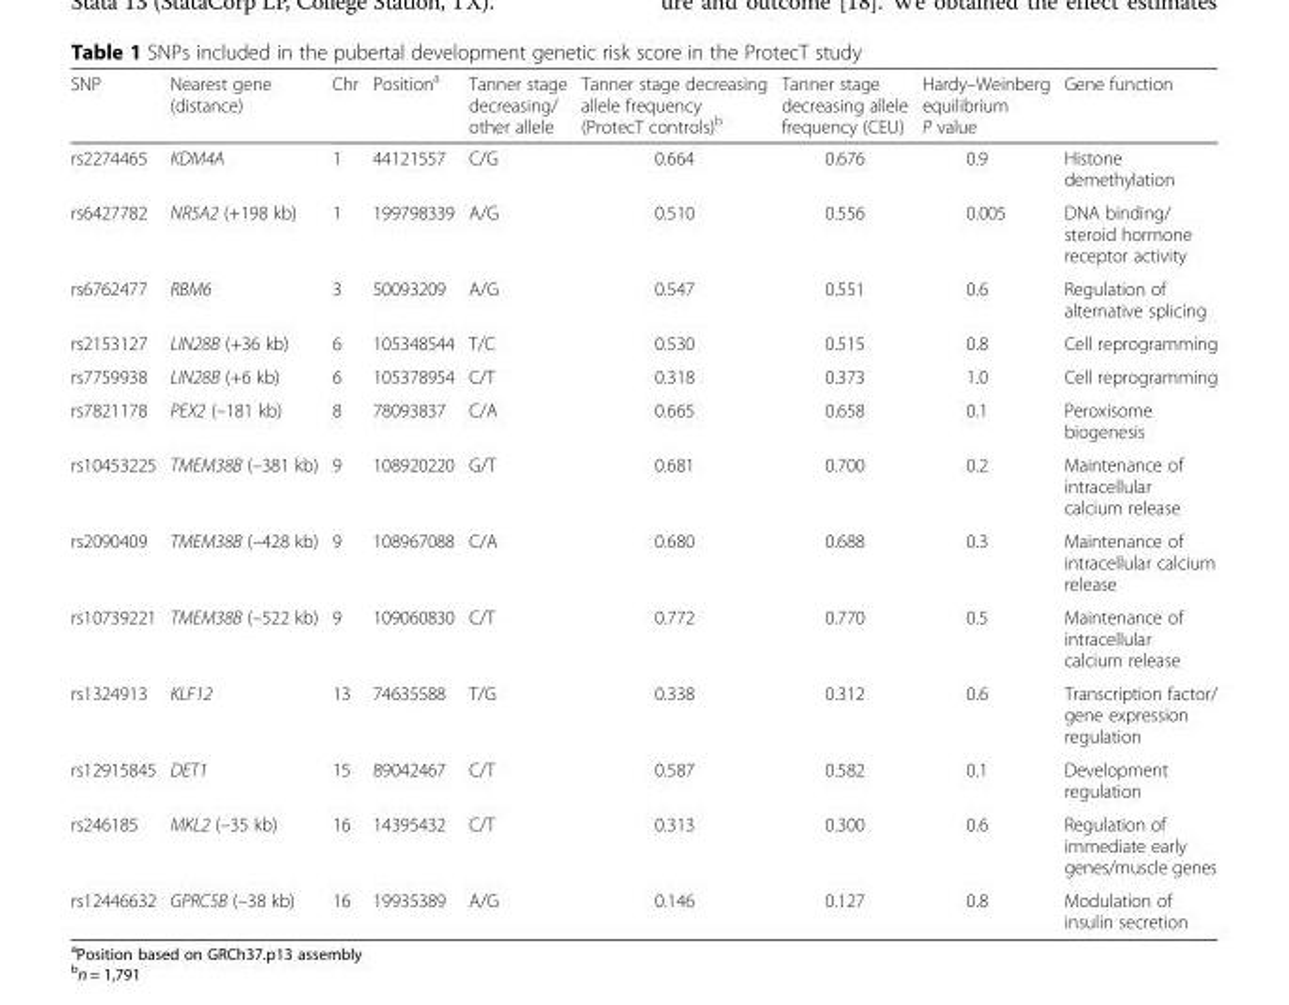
<table><thead><tr><td>SNP</td><td>Nearest gene (distance)</td><td>Chr</td><td>Position<sup>a</sup></td><td>Tanner stage decreasing/ other allele</td><td>Tanner stage decreasing allele frequency (ProtecT controls)<sup>b</sup></td><td>Tanner stage decreasing allele frequency (CEU)</td><td>Hardy–Weinberg equilibrium P value</td><td>Gene function</td></tr></thead><tbody><tr><td>rs2274465</td><td>KDM4A</td><td>1</td><td>44121557</td><td>C/G</td><td>0.664</td><td>0.676</td><td>0.9</td><td>Histone demethylation</td></tr><tr><td>rs6427782</td><td>NR5A2 (+198 kb)</td><td>1</td><td>199798339</td><td>A/G</td><td>0.510</td><td>0.556</td><td>0.005</td><td>DNA binding/ steroid hormone receptor activity</td></tr><tr><td>rs6762477</td><td>RBM6</td><td>3</td><td>50093209</td><td>A/G</td><td>0.547</td><td>0.551</td><td>0.6</td><td>Regulation of alternative splicing</td></tr><tr><td>rs2153127</td><td>LIN28B (+36 kb)</td><td>6</td><td>105348544</td><td>T/C</td><td>0.530</td><td>0.515</td><td>0.8</td><td>Cell reprogramming</td></tr><tr><td>rs7759938</td><td>LIN28B (+6 kb)</td><td>6</td><td>105378954</td><td>C/T</td><td>0.318</td><td>0.373</td><td>1.0</td><td>Cell reprogramming</td></tr><tr><td>rs7821178</td><td>PEX2 (–181 kb)</td><td>8</td><td>78093837</td><td>C/A</td><td>0.665</td><td>0.658</td><td>0.1</td><td>Peroxisome biogenesis</td></tr><tr><td>rs10453225</td><td>TMEM38B (–381 kb)</td><td>9</td><td>108920220</td><td>G/T</td><td>0.681</td><td>0.700</td><td>0.2</td><td>Maintenance of intracellular calcium release</td></tr><tr><td>rs2090409</td><td>TMEM38B (–428 kb)</td><td>9</td><td>108967088</td><td>C/A</td><td>0.680</td><td>0.688</td><td>0.3</td><td>Maintenance of intracellular calcium release</td></tr><tr><td>rs10739221</td><td>TMEM38B (–522 kb)</td><td>9</td><td>109060830</td><td>C/T</td><td>0.772</td><td>0.770</td><td>0.5</td><td>Maintenance of intracellular calcium release</td></tr><tr><td>rs1324913</td><td>KLF12</td><td>13</td><td>74635588</td><td>T/G</td><td>0.338</td><td>0.312</td><td>0.6</td><td>Transcription factor/ gene expression regulation</td></tr><tr><td>rs12915845</td><td>DET1</td><td>15</td><td>89042467</td><td>C/T</td><td>0.587</td><td>0.582</td><td>0.1</td><td>Development regulation</td></tr><tr><td>rs246185</td><td>MKL2 (–35 kb)</td><td>16</td><td>14395432</td><td>C/T</td><td>0.313</td><td>0.300</td><td>0.6</td><td>Regulation of immediate early genes/muscle genes</td></tr><tr><td>rs12446632</td><td>GPRC5B (–38 kb)</td><td>16</td><td>19935389</td><td>A/G</td><td>0.146</td><td>0.127</td><td>0.8</td><td>Modulation of insulin secretion</td></tr></tbody></table>